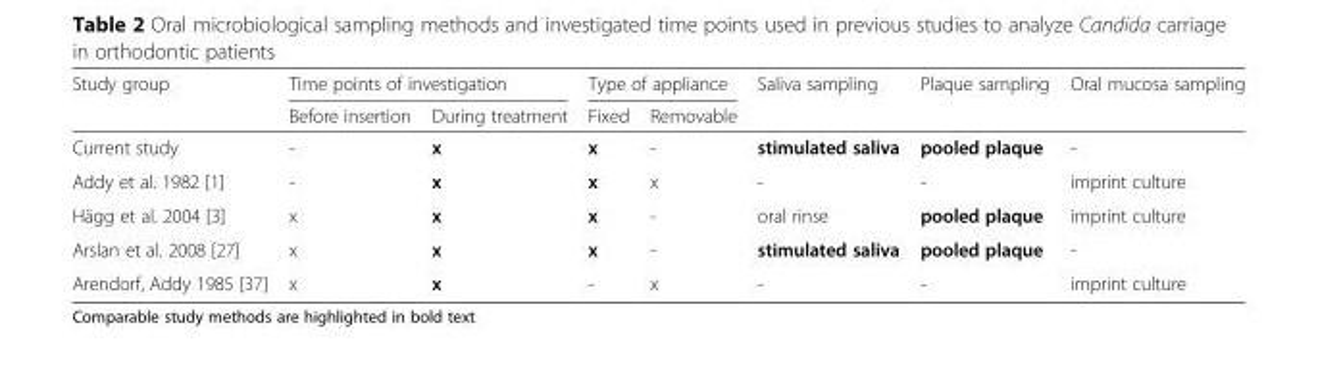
<table><thead><tr><td rowspan="2">Study group</td><td colspan="2">Time points of investigation</td><td colspan="2">Type of appliance</td><td rowspan="2">Saliva sampling</td><td rowspan="2">Plaque sampling</td><td rowspan="2">Oral mucosa sampling</td></tr><tr><td>Before insertion</td><td>During treatment</td><td>Fixed</td><td>Removable</td></tr></thead><tbody><tr><td>Current study</td><td>-</td><td>x</td><td>x</td><td>-</td><td>stimulated saliva</td><td>pooled plaque</td><td>-</td></tr><tr><td>Addy et al. 1982 [1]</td><td>-</td><td>x</td><td>x</td><td>x</td><td>-</td><td>-</td><td>imprint culture</td></tr><tr><td>Hägg et al. 2004 [3]</td><td>x</td><td>x</td><td>x</td><td>-</td><td>oral rinse</td><td>pooled plaque</td><td>imprint culture</td></tr><tr><td>Arslan et al. 2008 [27]</td><td>x</td><td>x</td><td>x</td><td>-</td><td>stimulated saliva</td><td>pooled plaque</td><td>-</td></tr><tr><td>Arendorf, Addy 1985 [37]</td><td>x</td><td>x</td><td>-</td><td>x</td><td>-</td><td>-</td><td>imprint culture</td></tr></tbody></table>